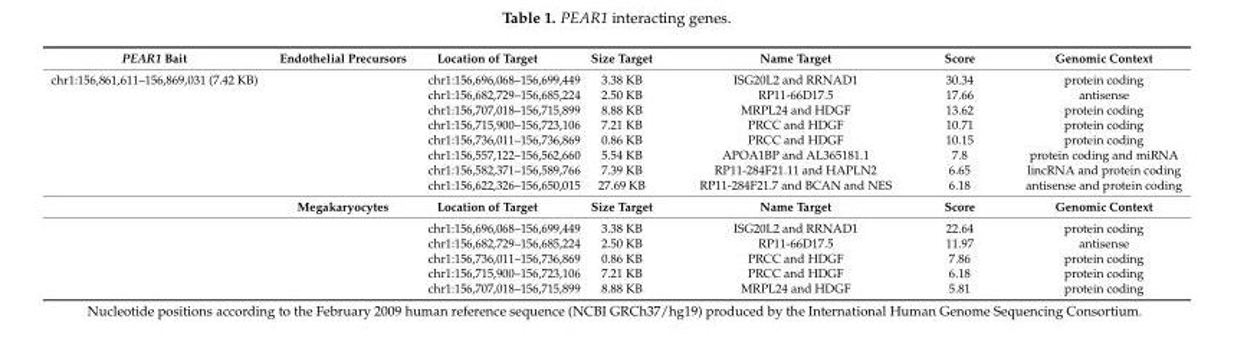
<table><tbody><tr><td>PEAR1 Bait</td><td>Endothelial Precursors</td><td>Location of Target</td><td>Size Target</td><td>Name Target</td><td>Score</td><td>Genomic Context</td></tr><tr><td rowspan="14">chr1:156,861,611–156,869,031 (7.42 KB)</td><td></td><td>chr1:156,696,068–156,699,449</td><td>3.38 KB</td><td>ISG20L2 and RRNAD1</td><td>30.34</td><td>protein coding</td></tr><tr><td></td><td>chr1:156,682,729–156,685,224</td><td>2.50 KB</td><td>RP11-66D17.5</td><td>17.66</td><td>antisense</td></tr><tr><td></td><td>chr1:156,707,018–156,715,899</td><td>8.88 KB</td><td>MRPL24 and HDGF</td><td>13.62</td><td>protein coding</td></tr><tr><td></td><td>chr1:156,715,900–156,723,106</td><td>7.21 KB</td><td>PRCC and HDGF</td><td>10.71</td><td>protein coding</td></tr><tr><td></td><td>chr1:156,736,011–156,736,869</td><td>0.86 KB</td><td>PRCC and HDGF</td><td>10.15</td><td>protein coding</td></tr><tr><td></td><td>chr1:156,557,122–156,562,660</td><td>5.54 KB</td><td>APOA1BP and AL365181.1</td><td>7.8</td><td>protein coding and miRNA</td></tr><tr><td></td><td>chr1:156,582,371–156,589,766</td><td>7.39 KB</td><td>RP11-284F21.11 and HAPLN2</td><td>6.65</td><td>lincRNA and protein coding</td></tr><tr><td></td><td>chr1:156,622,326–156,650,015</td><td>27.69 KB</td><td>RP11-284F21.7 and BCAN and NES</td><td>6.18</td><td>antisense and protein coding</td></tr><tr><td>Megakaryocytes</td><td>Location of Target</td><td>Size Target</td><td>Name Target</td><td>Score</td><td>Genomic Context</td></tr><tr><td></td><td>chr1:156,696,068–156,699,449</td><td>3.38 KB</td><td>ISG20L2 and RRNAD1</td><td>22.64</td><td>protein coding</td></tr><tr><td></td><td>chr1:156,682,729–156,685,224</td><td>2.50 KB</td><td>RP11-66D17.5</td><td>11.97</td><td>antisense</td></tr><tr><td></td><td>chr1:156,736,011–156,736,869</td><td>0.86 KB</td><td>PRCC and HDGF</td><td>7.86</td><td>protein coding</td></tr><tr><td></td><td>chr1:156,715,900–156,723,106</td><td>7.21 KB</td><td>PRCC and HDGF</td><td>6.18</td><td>protein coding</td></tr><tr><td></td><td>chr1:156,707,018–156,715,899</td><td>8.88 KB</td><td>MRPL24 and HDGF</td><td>5.81</td><td>protein coding</td></tr></tbody></table>